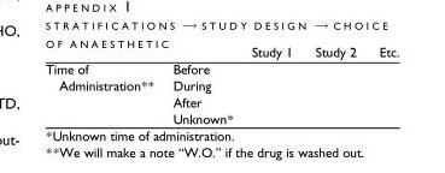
<table><thead><tr><td></td><td></td><td>Study 1</td><td>Study 2</td><td>Etc.</td></tr></thead><tbody><tr><td rowspan="4">Time of Administration**</td><td>Before</td><td></td><td></td><td></td></tr><tr><td>During</td><td></td><td></td><td></td></tr><tr><td>After</td><td></td><td></td><td></td></tr><tr><td>Unknown*</td><td></td><td></td><td></td></tr></tbody></table>